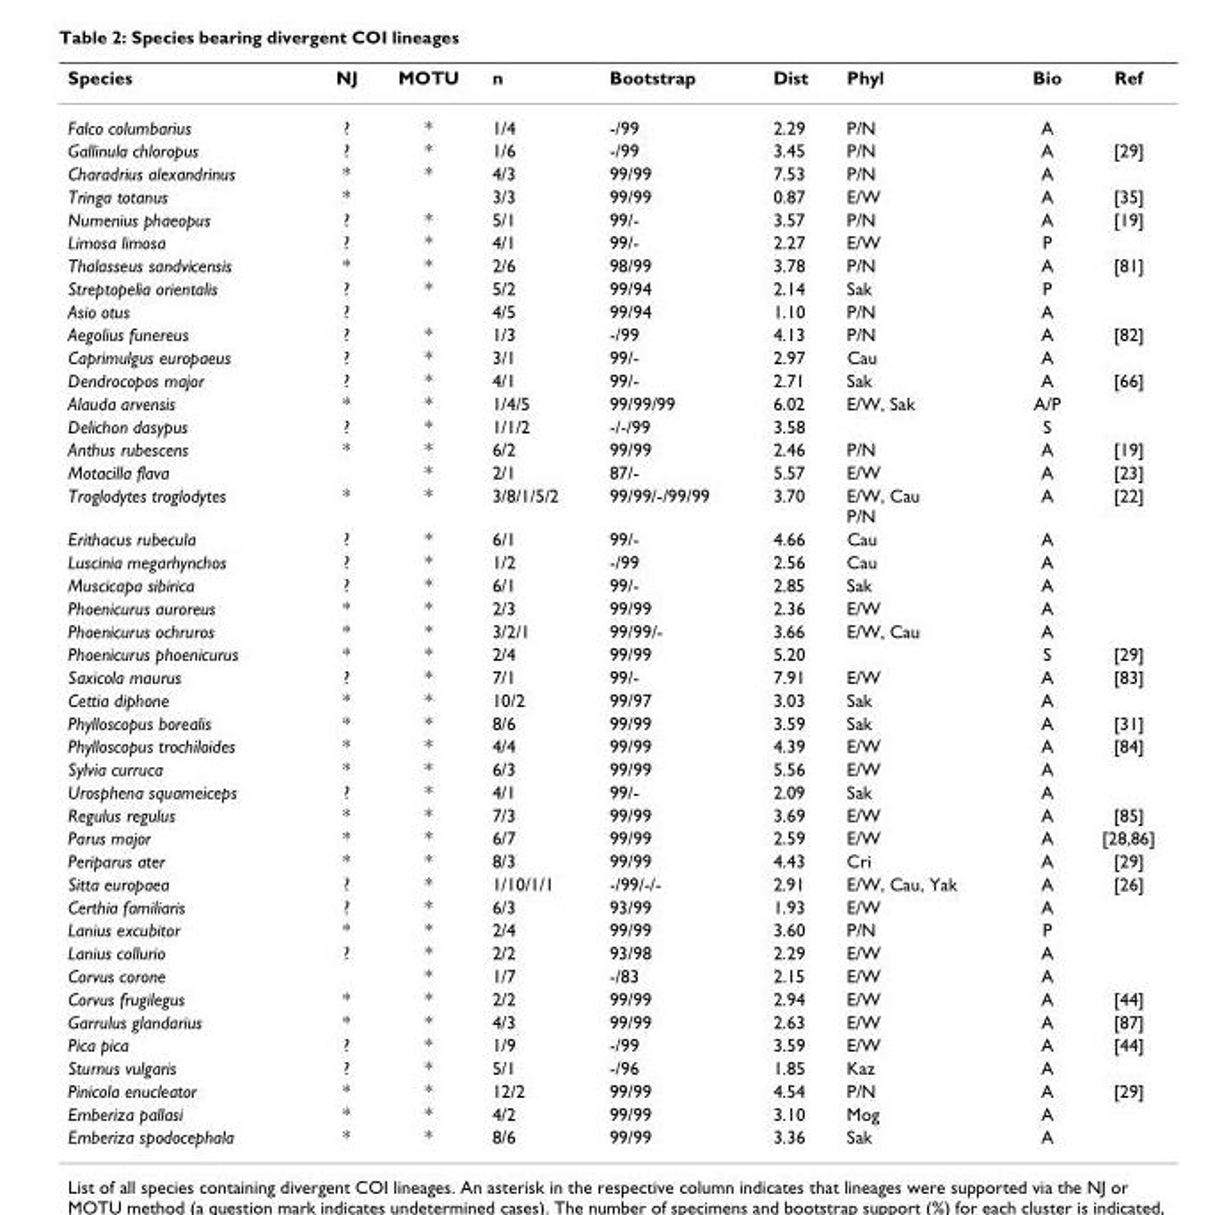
<table><thead><tr><td>Species</td><td>NJ</td><td>MOTU</td><td>n</td><td>Bootstrap</td><td>Dist</td><td>Phyl</td><td>Bio</td><td>Ref</td></tr></thead><tbody><tr><td>Falco columbarius</td><td>?</td><td>*</td><td>1/4</td><td>-/99</td><td>2.29</td><td>P/N</td><td>A</td><td></td></tr><tr><td>Gallinula chloropus</td><td>?</td><td>*</td><td>1/6</td><td>-/99</td><td>3.45</td><td>P/N</td><td>A</td><td>[29]</td></tr><tr><td>Charadrius alexandrinus</td><td>*</td><td>*</td><td>4/3</td><td>99/99</td><td>7.53</td><td>P/N</td><td>A</td><td></td></tr><tr><td>Tringa totanus</td><td>*</td><td></td><td>3/3</td><td>99/99</td><td>0.87</td><td>E/W</td><td>A</td><td>[35]</td></tr><tr><td>Numenius phaeopus</td><td>?</td><td>*</td><td>5/1</td><td>99/-</td><td>3.57</td><td>P/N</td><td>A</td><td>[19]</td></tr><tr><td>Limosa limosa</td><td>?</td><td>*</td><td>4/1</td><td>99/-</td><td>2.27</td><td>E/W</td><td>P</td><td></td></tr><tr><td>Thalasseus sandvicensis</td><td>*</td><td>*</td><td>2/6</td><td>98/99</td><td>3.78</td><td>P/N</td><td>A</td><td>[81]</td></tr><tr><td>Streptopelia orientalis</td><td>?</td><td>*</td><td>5/2</td><td>99/94</td><td>2.14</td><td>Sak</td><td>P</td><td></td></tr><tr><td>Asio otus</td><td>?</td><td></td><td>4/5</td><td>99/94</td><td>1.10</td><td>P/N</td><td>A</td><td></td></tr><tr><td>Aegolius funereus</td><td>?</td><td>*</td><td>1/3</td><td>-/99</td><td>4.13</td><td>P/N</td><td>A</td><td>[82]</td></tr><tr><td>Caprimulgus europaeus</td><td>?</td><td>*</td><td>3/1</td><td>99/-</td><td>2.97</td><td>Cau</td><td>A</td><td></td></tr><tr><td>Dendrocopos major</td><td>?</td><td>*</td><td>4/1</td><td>99/-</td><td>2.71</td><td>Sak</td><td>A</td><td>[66]</td></tr><tr><td>Alauda arvensis</td><td>*</td><td>*</td><td>1/4/5</td><td>99/99/99</td><td>6.02</td><td>E/W, Sak</td><td>A/P</td><td></td></tr><tr><td>Delichon dasypus</td><td>?</td><td>*</td><td>1/1/2</td><td>-/-/99</td><td>3.58</td><td></td><td>S</td><td></td></tr><tr><td>Anthus rubescens</td><td>*</td><td>*</td><td>6/2</td><td>99/99</td><td>2.46</td><td>P/N</td><td>A</td><td>[19]</td></tr><tr><td>Motacilla flava</td><td></td><td>*</td><td>2/1</td><td>87/-</td><td>5.57</td><td>E/W</td><td>A</td><td>[23]</td></tr><tr><td>Troglodytes troglodytes</td><td>*</td><td>*</td><td>3/8/1/5/2</td><td>99/99/-/99/99</td><td>3.70</td><td>E/W, Cau P/N</td><td>A</td><td>[22]</td></tr><tr><td>Erithacus rubecula</td><td>?</td><td>*</td><td>6/1</td><td>99/-</td><td>4.66</td><td>Cau</td><td>A</td><td></td></tr><tr><td>Luscinia megarhynchos</td><td>?</td><td>*</td><td>1/2</td><td>-/99</td><td>2.56</td><td>Cau</td><td>A</td><td></td></tr><tr><td>Muscicapa sibirica</td><td>?</td><td>*</td><td>6/1</td><td>99/-</td><td>2.85</td><td>Sak</td><td>A</td><td></td></tr><tr><td>Phoenicurus auroreus</td><td>*</td><td>*</td><td>2/3</td><td>99/99</td><td>2.36</td><td>E/W</td><td>A</td><td></td></tr><tr><td>Phoenicurus ochruros</td><td>*</td><td>*</td><td>3/2/1</td><td>99/99/-</td><td>3.66</td><td>E/W, Cau</td><td>A</td><td></td></tr><tr><td>Phoenicurus phoenicurus</td><td>*</td><td>*</td><td>2/4</td><td>99/99</td><td>5.20</td><td></td><td>S</td><td>[29]</td></tr><tr><td>Saxicola maurus</td><td>?</td><td>*</td><td>7/1</td><td>99/-</td><td>7.91</td><td>E/W</td><td>A</td><td>[83]</td></tr><tr><td>Cettia diphone</td><td>*</td><td>*</td><td>10/2</td><td>99/97</td><td>3.03</td><td>Sak</td><td>A</td><td></td></tr><tr><td>Phylloscopus borealis</td><td>*</td><td>*</td><td>8/6</td><td>99/99</td><td>3.59</td><td>Sak</td><td>A</td><td>[31]</td></tr><tr><td>Phylloscopus trochiloides</td><td>*</td><td>*</td><td>4/4</td><td>99/99</td><td>4.39</td><td>E/W</td><td>A</td><td>[84]</td></tr><tr><td>Sylvia curruca</td><td>*</td><td>*</td><td>6/3</td><td>99/99</td><td>5.56</td><td>E/W</td><td>A</td><td></td></tr><tr><td>Urosphena squameiceps</td><td>?</td><td>*</td><td>4/1</td><td>99/-</td><td>2.09</td><td>Sak</td><td>A</td><td></td></tr><tr><td>Regulus regulus</td><td>*</td><td>*</td><td>7/3</td><td>99/99</td><td>3.69</td><td>E/W</td><td>A</td><td>[85]</td></tr><tr><td>Parus major</td><td>*</td><td>*</td><td>6/7</td><td>99/99</td><td>2.59</td><td>E/W</td><td>A</td><td>[28,86]</td></tr><tr><td>Periparus ater</td><td>*</td><td>*</td><td>8/3</td><td>99/99</td><td>4.43</td><td>Cri</td><td>A</td><td>[29]</td></tr><tr><td>Sitta europaea</td><td>?</td><td>*</td><td>1/10/1/1</td><td>-/99/-/-</td><td>2.91</td><td>E/W, Cau, Yak</td><td>A</td><td>[26]</td></tr><tr><td>Certhia familiaris</td><td>?</td><td>*</td><td>6/3</td><td>93/99</td><td>1.93</td><td>E/W</td><td>A</td><td></td></tr><tr><td>Lanius excubitor</td><td>*</td><td>*</td><td>2/4</td><td>99/99</td><td>3.60</td><td>P/N</td><td>P</td><td></td></tr><tr><td>Lanius collurio</td><td>?</td><td>*</td><td>2/2</td><td>93/98</td><td>2.29</td><td>E/W</td><td>A</td><td></td></tr><tr><td>Corvus corone</td><td></td><td>*</td><td>1/7</td><td>-/83</td><td>2.15</td><td>E/W</td><td>A</td><td></td></tr><tr><td>Corvus frugilegus</td><td>*</td><td>*</td><td>2/2</td><td>99/99</td><td>2.94</td><td>E/W</td><td>A</td><td>[44]</td></tr><tr><td>Garrulus glandarius</td><td>*</td><td>*</td><td>4/3</td><td>99/99</td><td>2.63</td><td>E/W</td><td>A</td><td>[87]</td></tr><tr><td>Pica pica</td><td>?</td><td>*</td><td>1/9</td><td>-/99</td><td>3.59</td><td>E/W</td><td>A</td><td>[44]</td></tr><tr><td>Sturnus vulgaris</td><td>?</td><td>*</td><td>5/1</td><td>-/96</td><td>1.85</td><td>Kaz</td><td>A</td><td></td></tr><tr><td>Pinicola enucleator</td><td>*</td><td>*</td><td>12/2</td><td>99/99</td><td>4.54</td><td>P/N</td><td>A</td><td>[29]</td></tr><tr><td>Emberiza pallasi</td><td>*</td><td>*</td><td>4/2</td><td>99/99</td><td>3.10</td><td>Mog</td><td>A</td><td></td></tr><tr><td>Emberiza spodocephala</td><td>*</td><td>*</td><td>8/6</td><td>99/99</td><td>3.36</td><td>Sak</td><td>A</td><td></td></tr></tbody></table>